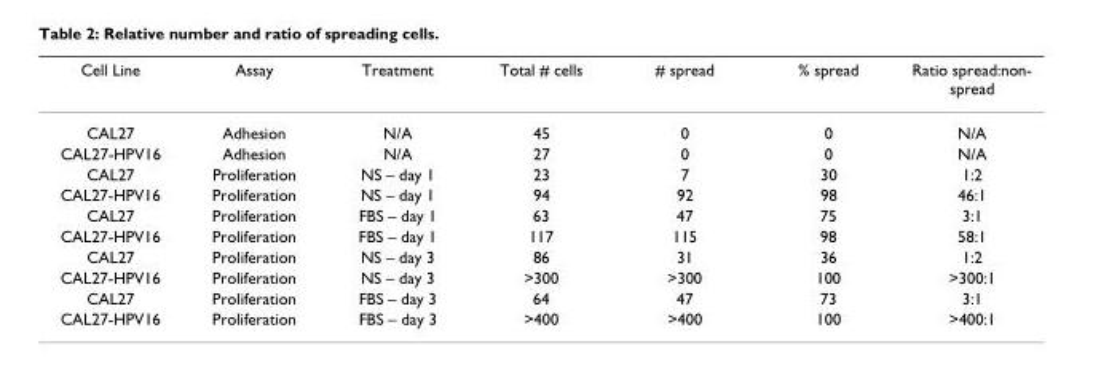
<table><thead><tr><td>Cell Line</td><td>Assay</td><td>Treatment</td><td>Total # cells</td><td># spread</td><td>% spread</td><td>Ratio spread:non- spread</td></tr></thead><tbody><tr><td>CAL27</td><td>Adhesion</td><td>N/A</td><td>45</td><td>0</td><td>0</td><td>N/A</td></tr><tr><td>CAL27-HPV16</td><td>Adhesion</td><td>N/A</td><td>27</td><td>0</td><td>0</td><td>N/A</td></tr><tr><td>CAL27</td><td>Proliferation</td><td>NS – day 1</td><td>23</td><td>7</td><td>30</td><td>1:2</td></tr><tr><td>CAL27-HPV16</td><td>Proliferation</td><td>NS – day 1</td><td>94</td><td>92</td><td>98</td><td>46:1</td></tr><tr><td>CAL27</td><td>Proliferation</td><td>FBS – day 1</td><td>63</td><td>47</td><td>75</td><td>3:1</td></tr><tr><td>CAL27-HPV16</td><td>Proliferation</td><td>FBS – day 1</td><td>117</td><td>115</td><td>98</td><td>58:1</td></tr><tr><td>CAL27</td><td>Proliferation</td><td>NS – day 3</td><td>86</td><td>31</td><td>36</td><td>1:2</td></tr><tr><td>CAL27-HPV16</td><td>Proliferation</td><td>NS – day 3</td><td>&gt;300</td><td>&gt;300</td><td>100</td><td>&gt;300:1</td></tr><tr><td>CAL27</td><td>Proliferation</td><td>FBS – day 3</td><td>64</td><td>47</td><td>73</td><td>3:1</td></tr><tr><td>CAL27-HPV16</td><td>Proliferation</td><td>FBS – day 3</td><td>&gt;400</td><td>&gt;400</td><td>100</td><td>&gt;400:1</td></tr></tbody></table>